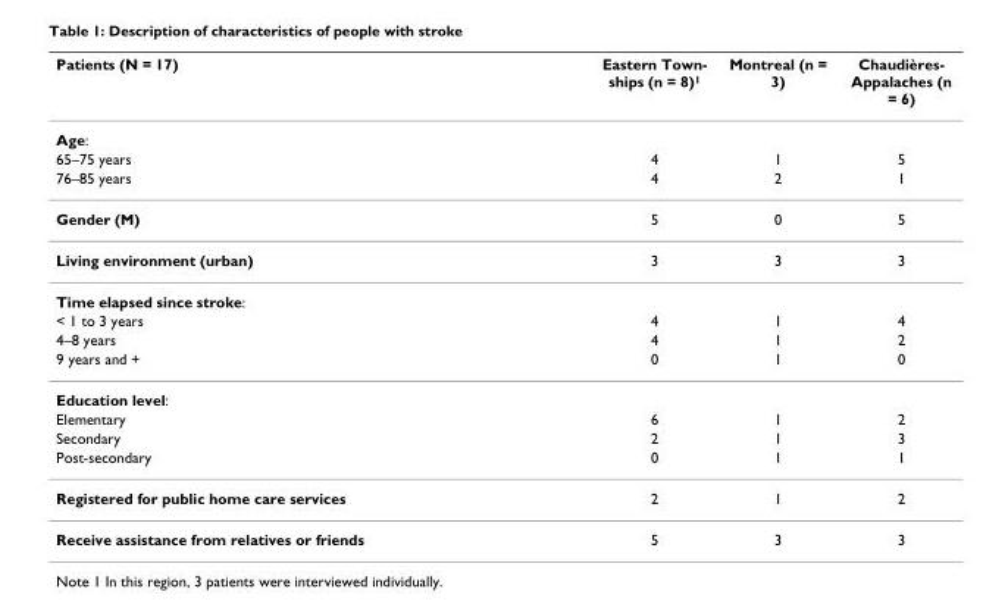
<table><thead><tr><td>Patients (N = 17)</td><td>Eastern Town- ships (n = 8)1</td><td>Montreal (n = 3)</td><td>Chaudières- Appalaches (n = 6)</td></tr></thead><tbody><tr><td colspan="4">Age:</td></tr><tr><td>65–75 years</td><td>4</td><td>1</td><td>5</td></tr><tr><td>76–85 years</td><td>4</td><td>2</td><td>1</td></tr><tr><td>Gender (M)</td><td>5</td><td>0</td><td>5</td></tr><tr><td>Living environment (urban)</td><td>3</td><td>3</td><td>3</td></tr><tr><td colspan="4">Time elapsed since stroke:</td></tr><tr><td>&lt; 1 to 3 years</td><td>4</td><td>1</td><td>4</td></tr><tr><td>4–8 years</td><td>4</td><td>1</td><td>2</td></tr><tr><td>9 years and +</td><td>0</td><td>1</td><td>0</td></tr><tr><td colspan="4">Education level:</td></tr><tr><td>Elementary</td><td>6</td><td>1</td><td>2</td></tr><tr><td>Secondary</td><td>2</td><td>1</td><td>3</td></tr><tr><td>Post-secondary</td><td>0</td><td>1</td><td>1</td></tr><tr><td>Registered for public home care services</td><td>2</td><td>1</td><td>2</td></tr><tr><td>Receive assistance from relatives or friends</td><td>5</td><td>3</td><td>3</td></tr></tbody></table>